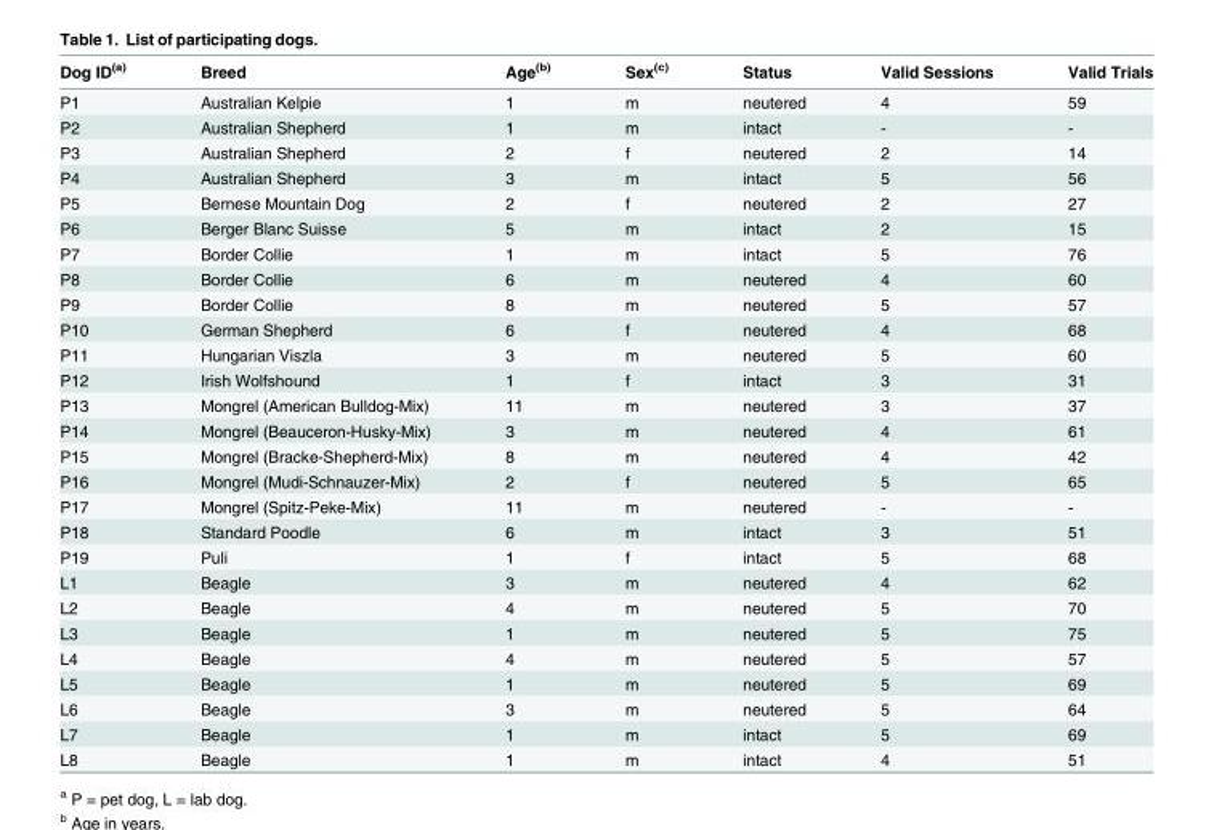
<table><thead><tr><td>Dog ID<sup>(a)</sup></td><td>Breed</td><td>Age<sup>(b)</sup></td><td>Sex<sup>(c)</sup></td><td>Status</td><td>Valid Sessions</td><td>Valid Trials</td></tr></thead><tbody><tr><td>P1</td><td>Australian Kelpie</td><td>1</td><td>m</td><td>neutered</td><td>4</td><td>59</td></tr><tr><td>P2</td><td>Australian Shepherd</td><td>1</td><td>m</td><td>intact</td><td>-</td><td>-</td></tr><tr><td>P3</td><td>Australian Shepherd</td><td>2</td><td>f</td><td>neutered</td><td>2</td><td>14</td></tr><tr><td>P4</td><td>Australian Shepherd</td><td>3</td><td>m</td><td>intact</td><td>5</td><td>56</td></tr><tr><td>P5</td><td>Bernese Mountain Dog</td><td>2</td><td>f</td><td>neutered</td><td>2</td><td>27</td></tr><tr><td>P6</td><td>Berger Blanc Suisse</td><td>5</td><td>m</td><td>intact</td><td>2</td><td>15</td></tr><tr><td>P7</td><td>Border Collie</td><td>1</td><td>m</td><td>intact</td><td>5</td><td>76</td></tr><tr><td>P8</td><td>Border Collie</td><td>6</td><td>m</td><td>neutered</td><td>4</td><td>60</td></tr><tr><td>P9</td><td>Border Collie</td><td>8</td><td>m</td><td>neutered</td><td>5</td><td>57</td></tr><tr><td>P10</td><td>German Shepherd</td><td>6</td><td>f</td><td>neutered</td><td>4</td><td>68</td></tr><tr><td>P11</td><td>Hungarian Viszla</td><td>3</td><td>m</td><td>neutered</td><td>5</td><td>60</td></tr><tr><td>P12</td><td>Irish Wolfshound</td><td>1</td><td>f</td><td>intact</td><td>3</td><td>31</td></tr><tr><td>P13</td><td>Mongrel (American Bulldog-Mix)</td><td>11</td><td>m</td><td>neutered</td><td>3</td><td>37</td></tr><tr><td>P14</td><td>Mongrel (Beauceron-Husky-Mix)</td><td>3</td><td>m</td><td>neutered</td><td>4</td><td>61</td></tr><tr><td>P15</td><td>Mongrel (Bracke-Shepherd-Mix)</td><td>8</td><td>m</td><td>neutered</td><td>4</td><td>42</td></tr><tr><td>P16</td><td>Mongrel (Mudi-Schnauzer-Mix)</td><td>2</td><td>f</td><td>neutered</td><td>5</td><td>65</td></tr><tr><td>P17</td><td>Mongrel (Spitz-Peke-Mix)</td><td>11</td><td>m</td><td>neutered</td><td>-</td><td>-</td></tr><tr><td>P18</td><td>Standard Poodle</td><td>6</td><td>m</td><td>intact</td><td>3</td><td>51</td></tr><tr><td>P19</td><td>Puli</td><td>1</td><td>f</td><td>intact</td><td>5</td><td>68</td></tr><tr><td>L1</td><td>Beagle</td><td>3</td><td>m</td><td>neutered</td><td>4</td><td>62</td></tr><tr><td>L2</td><td>Beagle</td><td>4</td><td>m</td><td>neutered</td><td>5</td><td>70</td></tr><tr><td>L3</td><td>Beagle</td><td>1</td><td>m</td><td>neutered</td><td>5</td><td>75</td></tr><tr><td>L4</td><td>Beagle</td><td>4</td><td>m</td><td>neutered</td><td>5</td><td>57</td></tr><tr><td>L5</td><td>Beagle</td><td>1</td><td>m</td><td>neutered</td><td>5</td><td>69</td></tr><tr><td>L6</td><td>Beagle</td><td>3</td><td>m</td><td>neutered</td><td>5</td><td>64</td></tr><tr><td>L7</td><td>Beagle</td><td>1</td><td>m</td><td>intact</td><td>5</td><td>69</td></tr><tr><td>L8</td><td>Beagle</td><td>1</td><td>m</td><td>intact</td><td>4</td><td>51</td></tr></tbody></table>